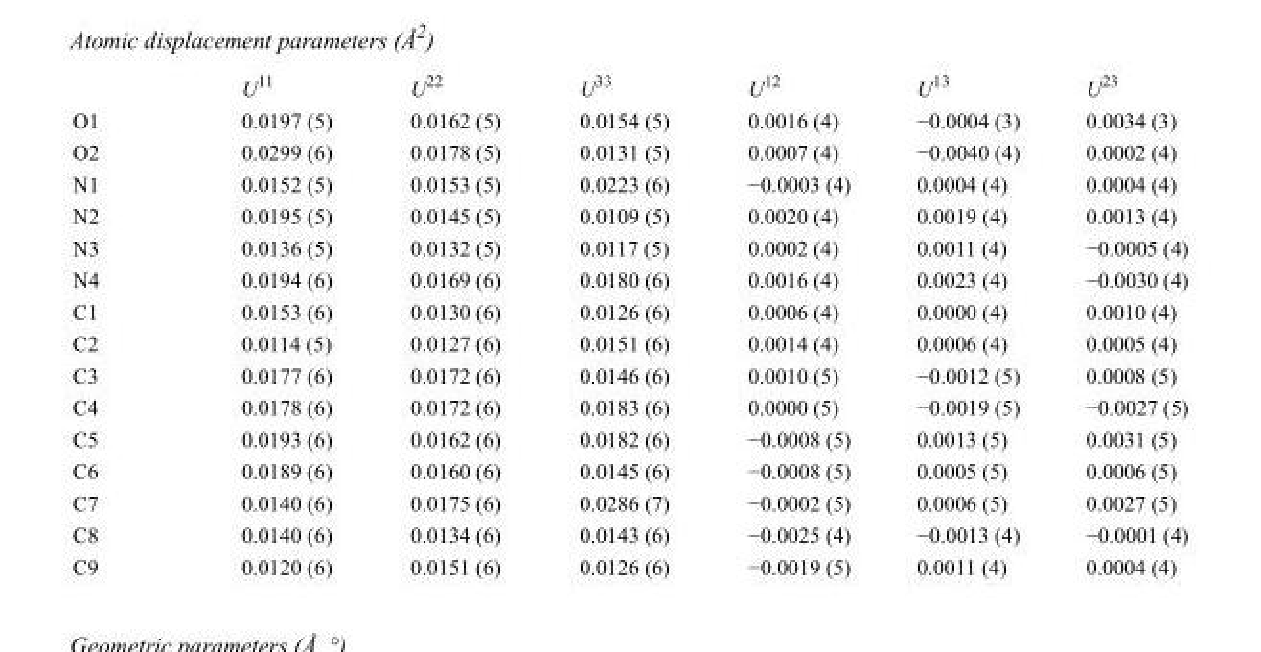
<table><thead><tr><td></td><td>U<sup>11</sup></td><td>U<sup>22</sup></td><td>U<sup>33</sup></td><td>U<sup>12</sup></td><td>U<sup>13</sup></td><td>U<sup>23</sup></td></tr></thead><tbody><tr><td>O1</td><td>0.0197 (5)</td><td>0.0162 (5)</td><td>0.0154 (5)</td><td>0.0016 (4)</td><td>−0.0004 (3)</td><td>0.0034 (3)</td></tr><tr><td>O2</td><td>0.0299 (6)</td><td>0.0178 (5)</td><td>0.0131 (5)</td><td>0.0007 (4)</td><td>−0.0040 (4)</td><td>0.0002 (4)</td></tr><tr><td>N1</td><td>0.0152 (5)</td><td>0.0153 (5)</td><td>0.0223 (6)</td><td>−0.0003 (4)</td><td>0.0004 (4)</td><td>0.0004 (4)</td></tr><tr><td>N2</td><td>0.0195 (5)</td><td>0.0145 (5)</td><td>0.0109 (5)</td><td>0.0020 (4)</td><td>0.0019 (4)</td><td>0.0013 (4)</td></tr><tr><td>N3</td><td>0.0136 (5)</td><td>0.0132 (5)</td><td>0.0117 (5)</td><td>0.0002 (4)</td><td>0.0011 (4)</td><td>−0.0005 (4)</td></tr><tr><td>N4</td><td>0.0194 (6)</td><td>0.0169 (6)</td><td>0.0180 (6)</td><td>0.0016 (4)</td><td>0.0023 (4)</td><td>−0.0030 (4)</td></tr><tr><td>C1</td><td>0.0153 (6)</td><td>0.0130 (6)</td><td>0.0126 (6)</td><td>0.0006 (4)</td><td>0.0000 (4)</td><td>0.0010 (4)</td></tr><tr><td>C2</td><td>0.0114 (5)</td><td>0.0127 (6)</td><td>0.0151 (6)</td><td>0.0014 (4)</td><td>0.0006 (4)</td><td>0.0005 (4)</td></tr><tr><td>C3</td><td>0.0177 (6)</td><td>0.0172 (6)</td><td>0.0146 (6)</td><td>0.0010 (5)</td><td>−0.0012 (5)</td><td>0.0008 (5)</td></tr><tr><td>C4</td><td>0.0178 (6)</td><td>0.0172 (6)</td><td>0.0183 (6)</td><td>0.0000 (5)</td><td>−0.0019 (5)</td><td>−0.0027 (5)</td></tr><tr><td>C5</td><td>0.0193 (6)</td><td>0.0162 (6)</td><td>0.0182 (6)</td><td>−0.0008 (5)</td><td>0.0013 (5)</td><td>0.0031 (5)</td></tr><tr><td>C6</td><td>0.0189 (6)</td><td>0.0160 (6)</td><td>0.0145 (6)</td><td>−0.0008 (5)</td><td>0.0005 (5)</td><td>0.0006 (5)</td></tr><tr><td>C7</td><td>0.0140 (6)</td><td>0.0175 (6)</td><td>0.0286 (7)</td><td>−0.0002 (5)</td><td>0.0006 (5)</td><td>0.0027 (5)</td></tr><tr><td>C8</td><td>0.0140 (6)</td><td>0.0134 (6)</td><td>0.0143 (6)</td><td>−0.0025 (4)</td><td>−0.0013 (4)</td><td>−0.0001 (4)</td></tr><tr><td>C9</td><td>0.0120 (6)</td><td>0.0151 (6)</td><td>0.0126 (6)</td><td>−0.0019 (5)</td><td>0.0011 (4)</td><td>0.0004 (4)</td></tr></tbody></table>